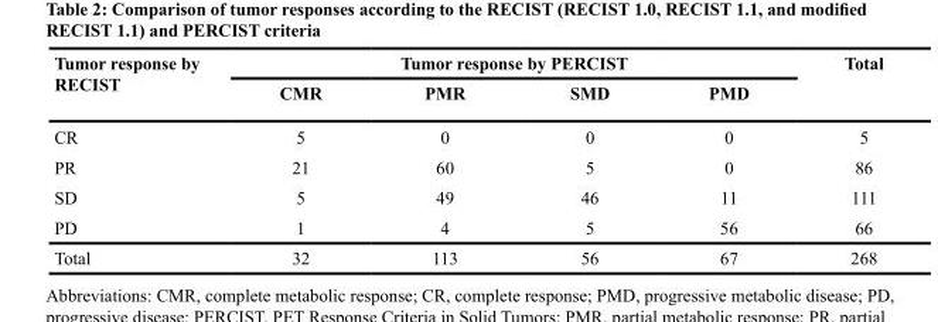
<table><thead><tr><td rowspan="2">Tumor response by RECIST</td><td colspan="4">Tumor response by PERCIST</td><td rowspan="2">Total</td></tr><tr><td>CMR</td><td>PMR</td><td>SMD</td><td>PMD</td></tr></thead><tbody><tr><td>CR</td><td>5</td><td>0</td><td>0</td><td>0</td><td>5</td></tr><tr><td>PR</td><td>21</td><td>60</td><td>5</td><td>0</td><td>86</td></tr><tr><td>SD</td><td>5</td><td>49</td><td>46</td><td>11</td><td>111</td></tr><tr><td>PD</td><td>1</td><td>4</td><td>5</td><td>56</td><td>66</td></tr><tr><td>Total</td><td>32</td><td>113</td><td>56</td><td>67</td><td>268</td></tr></tbody></table>